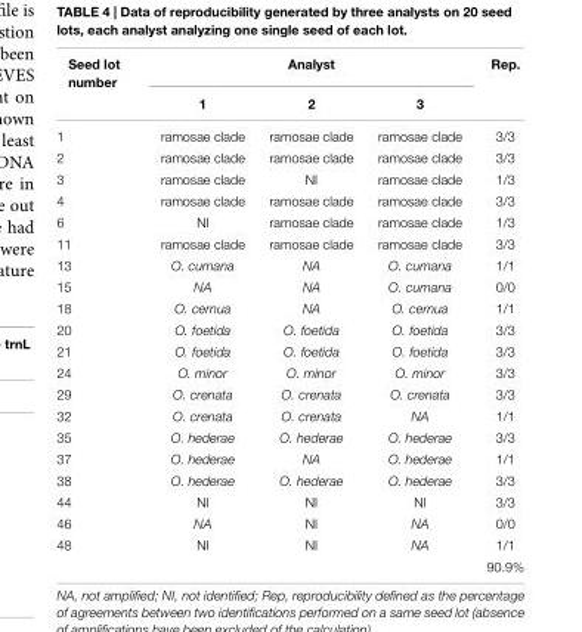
<table><thead><tr><td rowspan="2">Seed lot number</td><td colspan="3">Analyst</td><td rowspan="2">Rep.</td></tr><tr><td>1</td><td>2</td><td>3</td></tr></thead><tbody><tr><td>1</td><td>ramosae clade</td><td>ramosae clade</td><td>ramosae clade</td><td>3/3</td></tr><tr><td>2</td><td>ramosae clade</td><td>ramosae clade</td><td>ramosae clade</td><td>3/3</td></tr><tr><td>3</td><td>ramosae clade</td><td>NI</td><td>ramosae clade</td><td>1/3</td></tr><tr><td>4</td><td>ramosae clade</td><td>ramosae clade</td><td>ramosae clade</td><td>3/3</td></tr><tr><td>6</td><td>NI</td><td>ramosae clade</td><td>ramosae clade</td><td>1/3</td></tr><tr><td>11</td><td>ramosae clade</td><td>ramosae clade</td><td>ramosae clade</td><td>3/3</td></tr><tr><td>13</td><td>O. cumana</td><td>NA</td><td>O. cumana</td><td>1/1</td></tr><tr><td>15</td><td>NA</td><td>NA</td><td>O. cumana</td><td>0/0</td></tr><tr><td>18</td><td>O. cernua</td><td>NA</td><td>O. cernua</td><td>1/1</td></tr><tr><td>20</td><td>O. foetida</td><td>O. foetida</td><td>O. foetida</td><td>3/3</td></tr><tr><td>21</td><td>O. foetida</td><td>O. foetida</td><td>O. foetida</td><td>3/3</td></tr><tr><td>24</td><td>O. minor</td><td>O. minor</td><td>O. minor</td><td>3/3</td></tr><tr><td>29</td><td>O. crenata</td><td>O. crenata</td><td>O. crenata</td><td>3/3</td></tr><tr><td>32</td><td>O. crenata</td><td>O. crenata</td><td>NA</td><td>1/1</td></tr><tr><td>35</td><td>O. hederae</td><td>O. hederae</td><td>O. hederae</td><td>3/3</td></tr><tr><td>37</td><td>O. hederae</td><td>NA</td><td>O. hederae</td><td>1/1</td></tr><tr><td>38</td><td>O. hederae</td><td>O. hederae</td><td>O. hederae</td><td>3/3</td></tr><tr><td>44</td><td>NI</td><td>NI</td><td>NI</td><td>3/3</td></tr><tr><td>46</td><td>NA</td><td>NI</td><td>NA</td><td>0/0</td></tr><tr><td rowspan="2">48</td><td>NI</td><td>NI</td><td>NA</td><td>1/1</td></tr><tr><td></td><td></td><td></td><td>90.9%</td></tr></tbody></table>